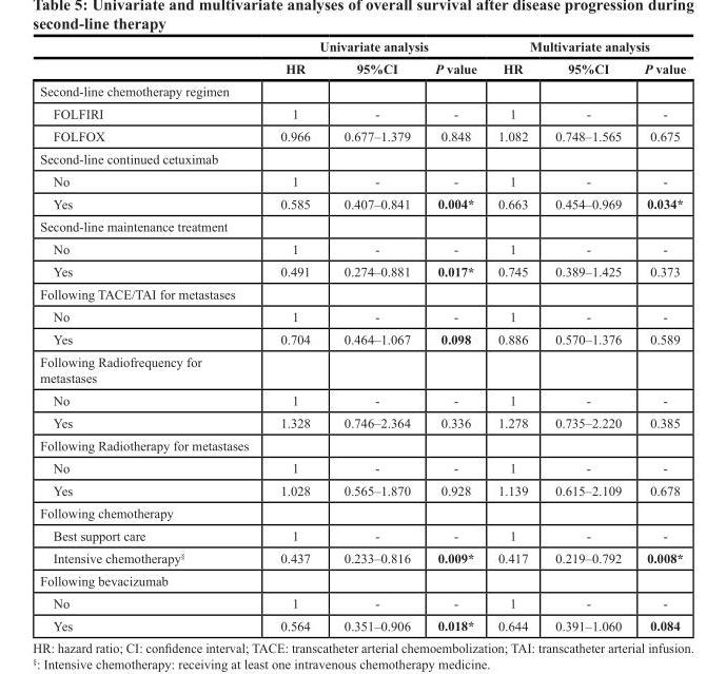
<table><thead><tr><td rowspan="2"></td><td colspan="3">Univariate analysis</td><td colspan="3">Multivariate analysis</td></tr><tr><td>HR</td><td>95%CI</td><td>P value</td><td>HR</td><td>95%CI</td><td>P value</td></tr></thead><tbody><tr><td colspan="7">Second-line chemotherapy regimen</td></tr><tr><td>FOLFIRI</td><td>1</td><td>-</td><td>-</td><td>1</td><td>-</td><td>-</td></tr><tr><td>FOLFOX</td><td>0.966</td><td>0.677–1.379</td><td>0.848</td><td>1.082</td><td>0.748–1.565</td><td>0.675</td></tr><tr><td colspan="7">Second-line continued cetuximab</td></tr><tr><td>No</td><td>1</td><td>-</td><td>-</td><td>1</td><td>-</td><td>-</td></tr><tr><td>Yes</td><td>0.585</td><td>0.407–0.841</td><td>0.004*</td><td>0.663</td><td>0.454–0.969</td><td>0.034*</td></tr><tr><td colspan="7">Second-line maintenance treatment</td></tr><tr><td>No</td><td>1</td><td>-</td><td>-</td><td>1</td><td>-</td><td>-</td></tr><tr><td>Yes</td><td>0.491</td><td>0.274–0.881</td><td>0.017*</td><td>0.745</td><td>0.389–1.425</td><td>0.373</td></tr><tr><td colspan="7">Following TACE/TAI for metastases</td></tr><tr><td>No</td><td>1</td><td>-</td><td>-</td><td>1</td><td>-</td><td>-</td></tr><tr><td>Yes</td><td>0.704</td><td>0.464–1.067</td><td>0.098</td><td>0.886</td><td>0.570–1.376</td><td>0.589</td></tr><tr><td colspan="7">Following Radiofrequency for metastases</td></tr><tr><td>No</td><td>1</td><td>-</td><td>-</td><td>1</td><td>-</td><td>-</td></tr><tr><td>Yes</td><td>1.328</td><td>0.746–2.364</td><td>0.336</td><td>1.278</td><td>0.735–2.220</td><td>0.385</td></tr><tr><td colspan="7">Following Radiotherapy for metastases</td></tr><tr><td>No</td><td>1</td><td>-</td><td>-</td><td>1</td><td>-</td><td>-</td></tr><tr><td>Yes</td><td>1.028</td><td>0.565–1.870</td><td>0.928</td><td>1.139</td><td>0.615–2.109</td><td>0.678</td></tr><tr><td colspan="7">Following chemotherapy</td></tr><tr><td>Best support care</td><td>1</td><td>-</td><td>-</td><td>1</td><td>-</td><td>-</td></tr><tr><td>Intensive chemotherapy<sup>§</sup></td><td>0.437</td><td>0.233–0.816</td><td>0.009*</td><td>0.417</td><td>0.219–0.792</td><td>0.008*</td></tr><tr><td colspan="7">Following bevacizumab</td></tr><tr><td>No</td><td>1</td><td>-</td><td>-</td><td>1</td><td>-</td><td>-</td></tr><tr><td>Yes</td><td>0.564</td><td>0.351–0.906</td><td>0.018*</td><td>0.644</td><td>0.391–1.060</td><td>0.084</td></tr></tbody></table>